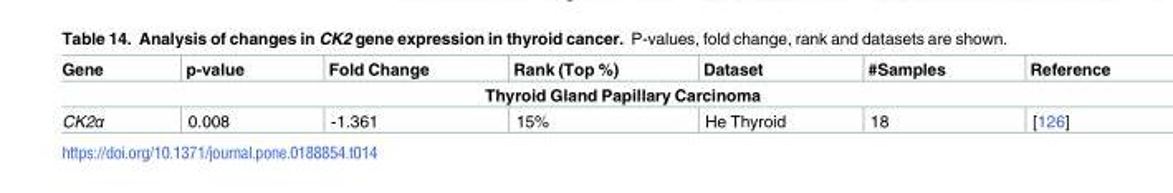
<table><thead><tr><td>Gene</td><td>p-value</td><td>Fold Change</td><td>Rank (Top %)</td><td>Dataset</td><td>#Samples</td><td>Reference</td></tr></thead><tbody><tr><td colspan="7">Thyroid Gland Papillary Carcinoma</td></tr><tr><td>CK2α</td><td>0.008</td><td>-1.361</td><td>15%</td><td>He Thyroid</td><td>18</td><td>[126]</td></tr></tbody></table>